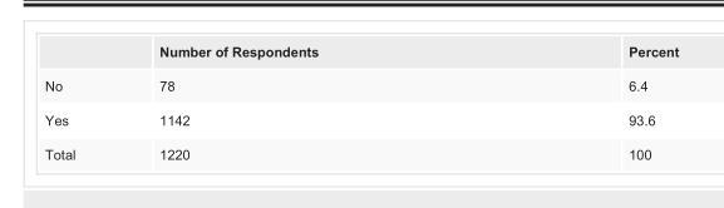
<table><thead><tr><td></td><td>Number of Respondents</td><td>Percent</td></tr></thead><tbody><tr><td>No</td><td>78</td><td>6.4</td></tr><tr><td>Yes</td><td>1142</td><td>93.6</td></tr><tr><td>Total</td><td>1220</td><td>100</td></tr></tbody></table>